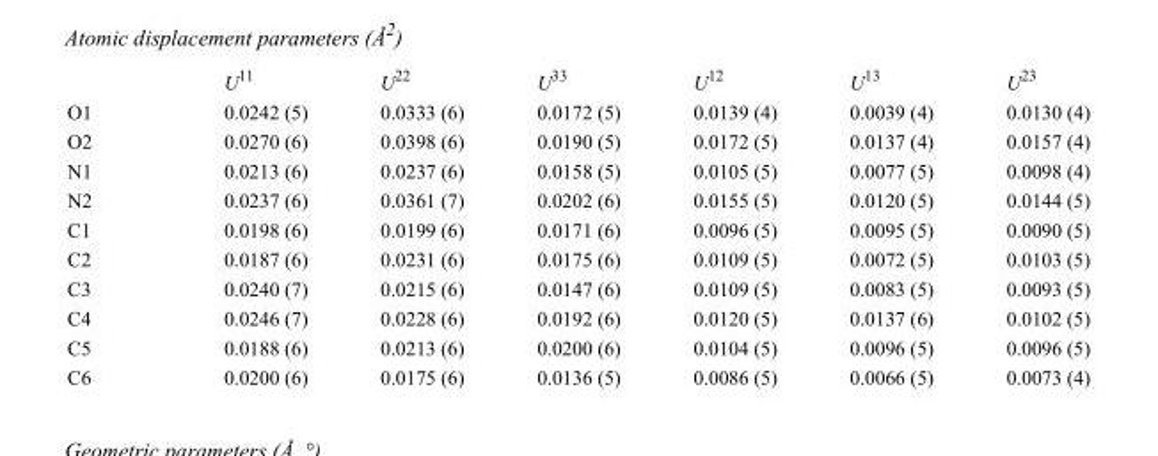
<table><thead><tr><td></td><td>U<sup>11</sup></td><td>U<sup>22</sup></td><td>U<sup>33</sup></td><td>U<sup>12</sup></td><td>U<sup>13</sup></td><td>U<sup>23</sup></td></tr></thead><tbody><tr><td>O1</td><td>0.0242 (5)</td><td>0.0333 (6)</td><td>0.0172 (5)</td><td>0.0139 (4)</td><td>0.0039 (4)</td><td>0.0130 (4)</td></tr><tr><td>O2</td><td>0.0270 (6)</td><td>0.0398 (6)</td><td>0.0190 (5)</td><td>0.0172 (5)</td><td>0.0137 (4)</td><td>0.0157 (4)</td></tr><tr><td>N1</td><td>0.0213 (6)</td><td>0.0237 (6)</td><td>0.0158 (5)</td><td>0.0105 (5)</td><td>0.0077 (5)</td><td>0.0098 (4)</td></tr><tr><td>N2</td><td>0.0237 (6)</td><td>0.0361 (7)</td><td>0.0202 (6)</td><td>0.0155 (5)</td><td>0.0120 (5)</td><td>0.0144 (5)</td></tr><tr><td>C1</td><td>0.0198 (6)</td><td>0.0199 (6)</td><td>0.0171 (6)</td><td>0.0096 (5)</td><td>0.0095 (5)</td><td>0.0090 (5)</td></tr><tr><td>C2</td><td>0.0187 (6)</td><td>0.0231 (6)</td><td>0.0175 (6)</td><td>0.0109 (5)</td><td>0.0072 (5)</td><td>0.0103 (5)</td></tr><tr><td>C3</td><td>0.0240 (7)</td><td>0.0215 (6)</td><td>0.0147 (6)</td><td>0.0109 (5)</td><td>0.0083 (5)</td><td>0.0093 (5)</td></tr><tr><td>C4</td><td>0.0246 (7)</td><td>0.0228 (6)</td><td>0.0192 (6)</td><td>0.0120 (5)</td><td>0.0137 (6)</td><td>0.0102 (5)</td></tr><tr><td>C5</td><td>0.0188 (6)</td><td>0.0213 (6)</td><td>0.0200 (6)</td><td>0.0104 (5)</td><td>0.0096 (5)</td><td>0.0096 (5)</td></tr><tr><td>C6</td><td>0.0200 (6)</td><td>0.0175 (6)</td><td>0.0136 (5)</td><td>0.0086 (5)</td><td>0.0066 (5)</td><td>0.0073 (4)</td></tr></tbody></table>